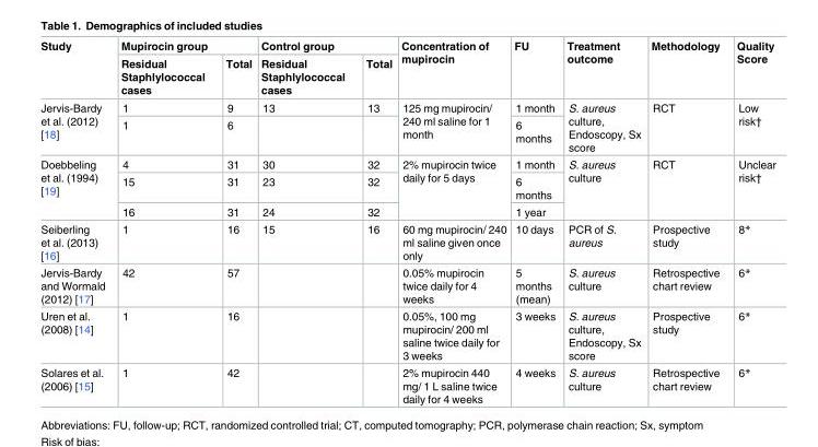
<table><thead><tr><td rowspan="2">Study</td><td colspan="2">Mupirocin group</td><td colspan="2">Control group</td><td rowspan="2">Concentration of mupirocin</td><td rowspan="2">FU</td><td rowspan="2">Treatment outcome</td><td rowspan="2">Methodology</td><td rowspan="2">Quality Score</td></tr><tr><td>Residual Staphlylococcal cases</td><td>Total</td><td>Residual Staphlylococcal cases</td><td>Total</td></tr></thead><tbody><tr><td rowspan="2">Jervis-Bardy et al. (2012) [18]</td><td>1</td><td>9</td><td>13</td><td>13</td><td rowspan="2">125 mg mupirocin/ 240 ml saline for 1 month</td><td>1 month</td><td rowspan="2">S. aureus culture, Endoscopy, Sx score</td><td rowspan="2">RCT</td><td rowspan="2">Low risk†</td></tr><tr><td>1</td><td>6</td><td></td><td></td><td>6 months</td></tr><tr><td rowspan="3">Doebbeling et al. (1994) [19]</td><td>4</td><td>31</td><td>30</td><td>32</td><td rowspan="3">2% mupirocin twice daily for 5 days</td><td>1 month</td><td rowspan="3">S. aureus culture</td><td rowspan="3">RCT</td><td rowspan="3">Unclear risk†</td></tr><tr><td>15</td><td>31</td><td>23</td><td>32</td><td>6 months</td></tr><tr><td>16</td><td>31</td><td>24</td><td>32</td><td>1 year</td></tr><tr><td>Seiberling et al. (2013) [16]</td><td>1</td><td>16</td><td>15</td><td>16</td><td>60 mg mupirocin/ 240 ml saline given once only</td><td>10 days</td><td>PCR of S. aureus</td><td>Prospective study</td><td>8*</td></tr><tr><td>Jervis-Bardy and Wormald (2012) [17]</td><td>42</td><td>57</td><td></td><td></td><td>0.05% mupirocin twice daily for 4 weeks</td><td>5 months (mean)</td><td>S. aureus culture</td><td>Retrospective chart review</td><td>6*</td></tr><tr><td>Uren et al. (2008) [14]</td><td>1</td><td>16</td><td></td><td></td><td>0.05%, 100 mg mupirocin/ 200 ml saline twice daily for 3 weeks</td><td>3 weeks</td><td>S. aureus culture, Endoscopy, Sx score</td><td>Prospective study</td><td>6*</td></tr><tr><td>Solares et al. (2006) [15]</td><td>1</td><td>42</td><td></td><td></td><td>2% mupirocin 440 mg/ 1 L saline twice daily for 4 weeks</td><td>4 weeks</td><td>S. aureus culture</td><td>Retrospective chart review</td><td>6*</td></tr></tbody></table>